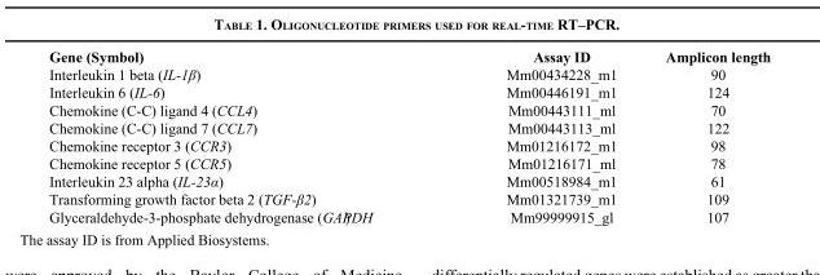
<table><thead><tr><td>Gene (Symbol)</td><td>Assay ID</td><td>Amplicon length</td></tr></thead><tbody><tr><td>Interleukin 1 beta (IL-1β)</td><td>Mm00434228_m1</td><td>90</td></tr><tr><td>Interleukin 6 (IL-6)</td><td>Mm00446191_m1</td><td>124</td></tr><tr><td>Chemokine (C-C) ligand 4 (CCL4)</td><td>Mm00443111_ml</td><td>70</td></tr><tr><td>Chemokine (C-C) ligand 7 (CCL7)</td><td>Mm00443113_ml</td><td>122</td></tr><tr><td>Chemokine receptor 3 (CCR3)</td><td>Mm01216172_m1</td><td>98</td></tr><tr><td>Chemokine receptor 5 (CCR5)</td><td>Mm01216171_ml</td><td>78</td></tr><tr><td>Interleukin 23 alpha (IL-23α)</td><td>Mm00518984_m1</td><td>61</td></tr><tr><td>Transforming growth factor beta 2 (TGF-β2)</td><td>Mm01321739_m1</td><td>109</td></tr><tr><td>Glyceraldehyde-3-phosphate dehydrogenase (GAPDH )</td><td>Mm99999915_gl</td><td>107</td></tr></tbody></table>